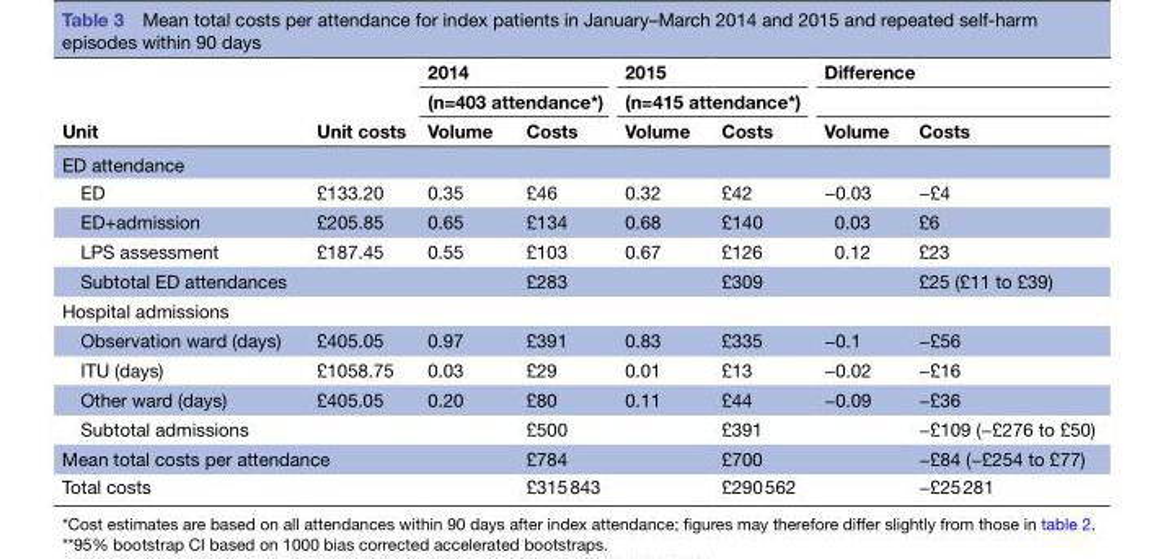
<table><thead><tr><td rowspan="3">Unit</td><td rowspan="3">Unit costs</td><td rowspan="2" colspan="2">2014 (n=403 attendance*)</td><td rowspan="2" colspan="2">2015 (n=415 attendance*)</td><td colspan="2">Difference</td></tr><tr><td rowspan="2">Volume</td><td rowspan="2">Costs</td></tr><tr><td>Volume</td><td>Costs</td><td>Volume</td><td>Costs</td></tr></thead><tbody><tr><td colspan="8">ED attendance</td></tr><tr><td>ED</td><td>£133.20</td><td>0.35</td><td>£46</td><td>0.32</td><td>£42</td><td>−0.03</td><td>−£4</td></tr><tr><td>ED+admission</td><td>£205.85</td><td>0.65</td><td>£134</td><td>0.68</td><td>£140</td><td>0.03</td><td>£6</td></tr><tr><td>LPS assessment</td><td>£187.45</td><td>0.55</td><td>£103</td><td>0.67</td><td>£126</td><td>0.12</td><td>£23</td></tr><tr><td>Subtotal ED attendances</td><td></td><td></td><td>£283</td><td></td><td>£309</td><td></td><td>£25 (£11 to £39)</td></tr><tr><td colspan="8">Hospital admissions</td></tr><tr><td>Observation ward (days)</td><td>£405.05</td><td>0.97</td><td>£391</td><td>0.83</td><td>£335</td><td>−0.1</td><td>−£56</td></tr><tr><td>ITU (days)</td><td>£1058.75</td><td>0.03</td><td>£29</td><td>0.01</td><td>£13</td><td>−0.02</td><td>−£16</td></tr><tr><td>Other ward (days)</td><td>£405.05</td><td>0.20</td><td>£80</td><td>0.11</td><td>£44</td><td>−0.09</td><td>−£36</td></tr><tr><td>Subtotal admissions</td><td></td><td></td><td>£500</td><td></td><td>£391</td><td></td><td>−£109 (−£276 to £50)</td></tr><tr><td colspan="2">Mean total costs per attendance</td><td></td><td>£784</td><td></td><td>£700</td><td></td><td>−£84 (−£254 to £77)</td></tr><tr><td colspan="2">Total costs</td><td></td><td>£315 843</td><td></td><td>£290 562</td><td></td><td>−£25 281</td></tr></tbody></table>